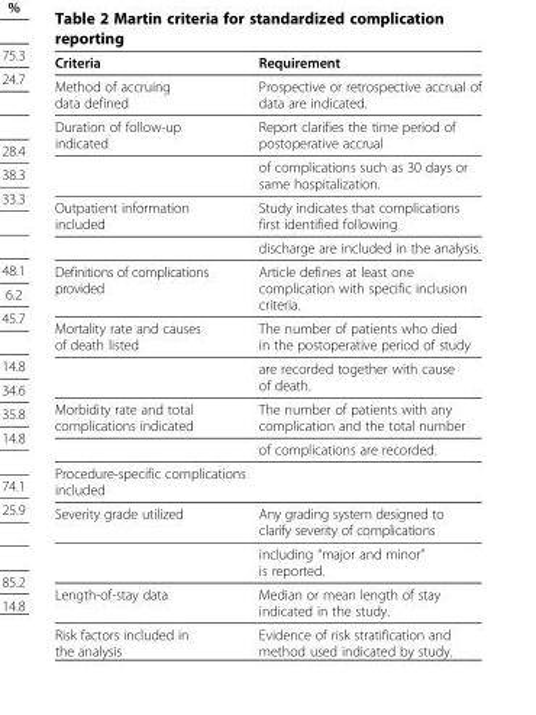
<table><thead><tr><td>Criteria</td><td>Requirement</td></tr></thead><tbody><tr><td>Method of accruing data defined</td><td>Prospective or retrospective accrual of data are indicated.</td></tr><tr><td rowspan="2">Duration of follow-up indicated</td><td>Report clarifies the time period of postoperative accrual</td></tr><tr><td>of complications such as 30 days or same hospitalization.</td></tr><tr><td rowspan="2">Outpatient information included</td><td>Study indicates that complications first identified following</td></tr><tr><td>discharge are included in the analysis.</td></tr><tr><td>Definitions of complications provided</td><td>Article defines at least one complication with specific inclusion criteria.</td></tr><tr><td rowspan="2">Mortality rate and causes of death listed</td><td>The number of patients who died in the postoperative period of study</td></tr><tr><td>are recorded together with cause of death.</td></tr><tr><td rowspan="2">Morbidity rate and total complications indicated</td><td>The number of patients with any complication and the total number</td></tr><tr><td>of complications are recorded.</td></tr><tr><td colspan="2">Procedure-specific complications included</td></tr><tr><td rowspan="2">Severity grade utilized</td><td>Any grading system designed to clarify severity of complications</td></tr><tr><td>including “major and minor” is reported.</td></tr><tr><td>Length-of-stay data</td><td>Median or mean length of stay indicated in the study.</td></tr><tr><td>Risk factors included in the analysis</td><td>Evidence of risk stratification and method used indicated by study.</td></tr></tbody></table>